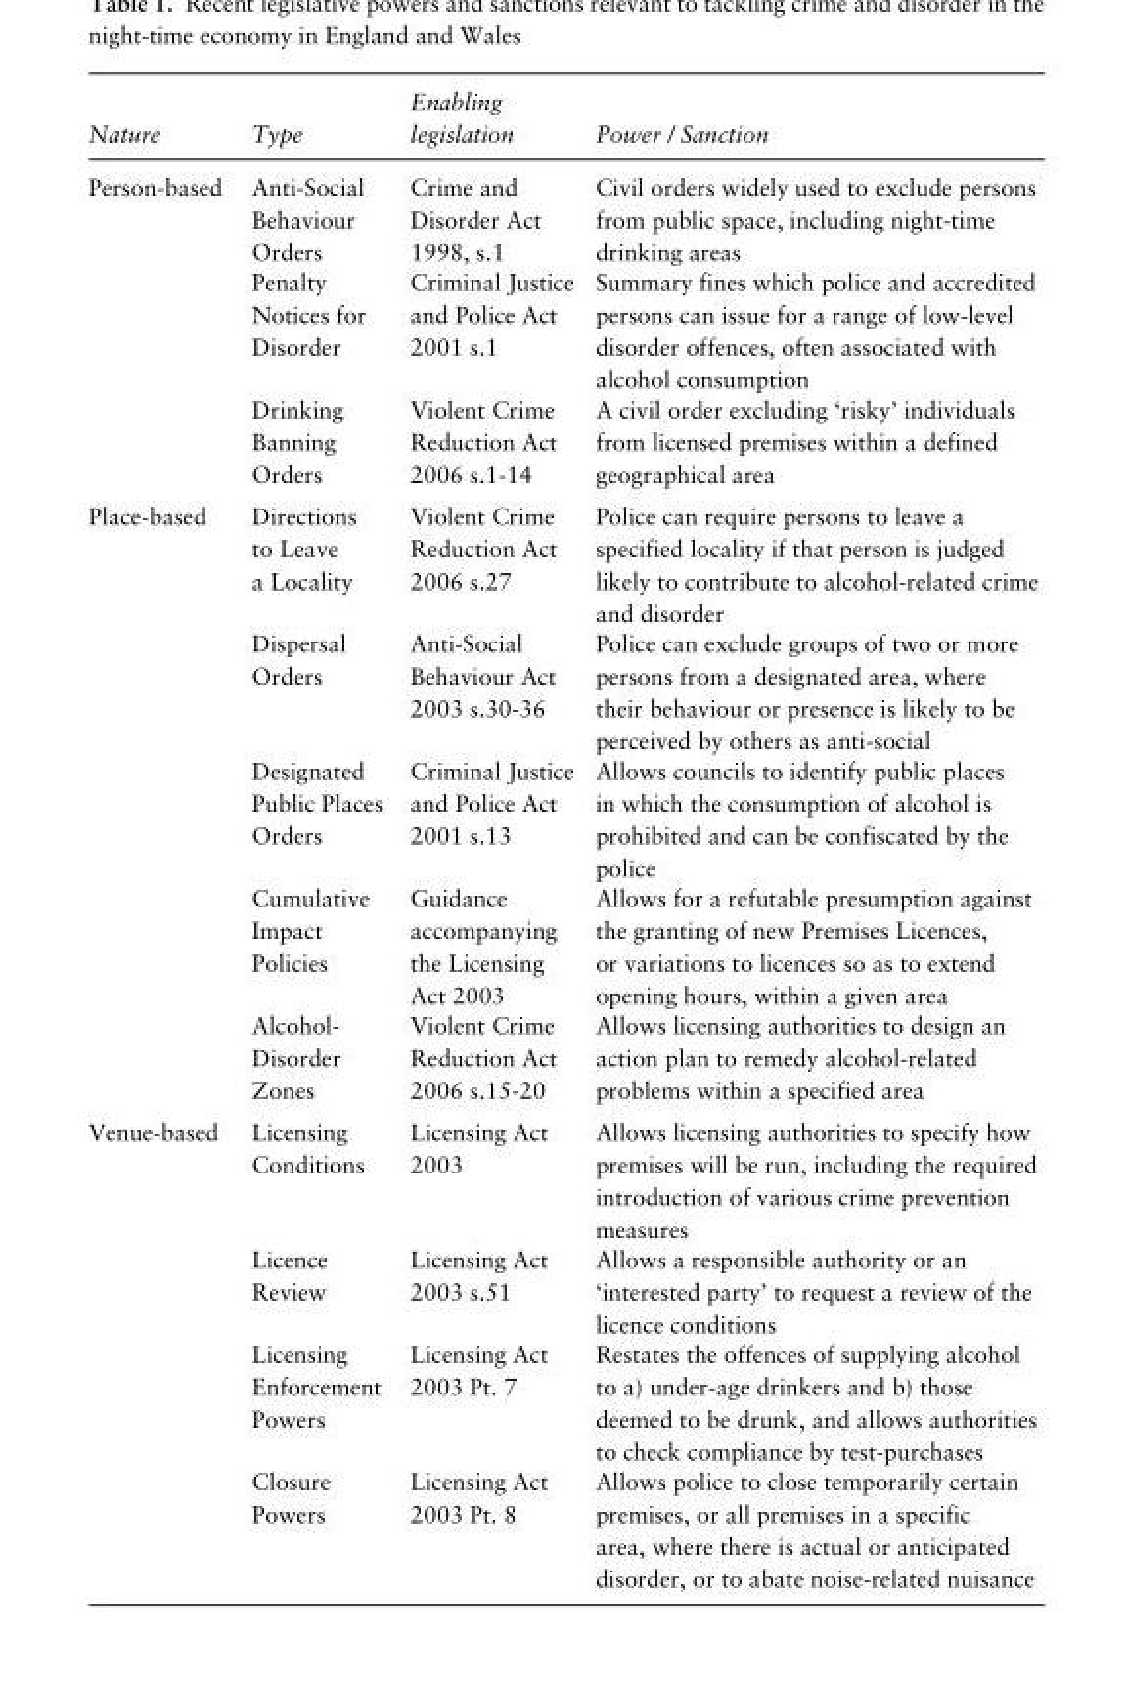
<table><thead><tr><td>Nature</td><td>Type</td><td>Enabling legislation</td><td>Power / Sanction</td></tr></thead><tbody><tr><td rowspan="3">Person-based</td><td>Anti-Social Behaviour Orders</td><td>Crime and Disorder Act 1998, s.1</td><td>Civil orders widely used to exclude persons from public space, including night-time drinking areas</td></tr><tr><td>Penalty Notices for Disorder</td><td>Criminal Justice and Police Act 2001 s.1</td><td>Summary fines which police and accredited persons can issue for a range of low-level disorder offences, often associated with alcohol consumption</td></tr><tr><td>Drinking Banning Orders</td><td>Violent Crime Reduction Act 2006 s.1-14</td><td>A civil order excluding ‘risky’ individuals from licensed premises within a defined geographical area</td></tr><tr><td rowspan="5">Place-based</td><td>Directions to Leave a Locality</td><td>Violent Crime Reduction Act 2006 s.27</td><td>Police can require persons to leave a specified locality if that person is judged likely to contribute to alcohol-related crime and disorder</td></tr><tr><td>Dispersal Orders</td><td>Anti-Social Behaviour Act 2003 s.30-36</td><td>Police can exclude groups of two or more persons from a designated area, where their behaviour or presence is likely to be perceived by others as anti-social</td></tr><tr><td>Designated Public Places Orders</td><td>Criminal Justice and Police Act 2001 s.13</td><td>Allows councils to identify public places in which the consumption of alcohol is prohibited and can be confiscated by the police</td></tr><tr><td>Cumulative Impact Policies</td><td>Guidance accompanying the Licensing Act 2003</td><td>Allows for a refutable presumption against the granting of new Premises Licences, or variations to licences so as to extend opening hours, within a given area</td></tr><tr><td>Alcohol- Disorder Zones</td><td>Violent Crime Reduction Act 2006 s.15-20</td><td>Allows licensing authorities to design an action plan to remedy alcohol-related problems within a specified area</td></tr><tr><td rowspan="4">Venue-based</td><td>Licensing Conditions</td><td>Licensing Act 2003</td><td>Allows licensing authorities to specify how premises will be run, including the required introduction of various crime prevention measures</td></tr><tr><td>Licence Review</td><td>Licensing Act 2003 s.51</td><td>Allows a responsible authority or an ‘interested party’ to request a review of the licence conditions</td></tr><tr><td>Licensing Enforcement Powers</td><td>Licensing Act 2003 Pt. 7</td><td>Restates the offences of supplying alcohol to a) under-age drinkers and b) those deemed to be drunk, and allows authorities to check compliance by test-purchases</td></tr><tr><td>Closure Powers</td><td>Licensing Act 2003 Pt. 8</td><td>Allows police to close temporarily certain premises, or all premises in a specific area, where there is actual or anticipated disorder, or to abate noise-related nuisance</td></tr></tbody></table>